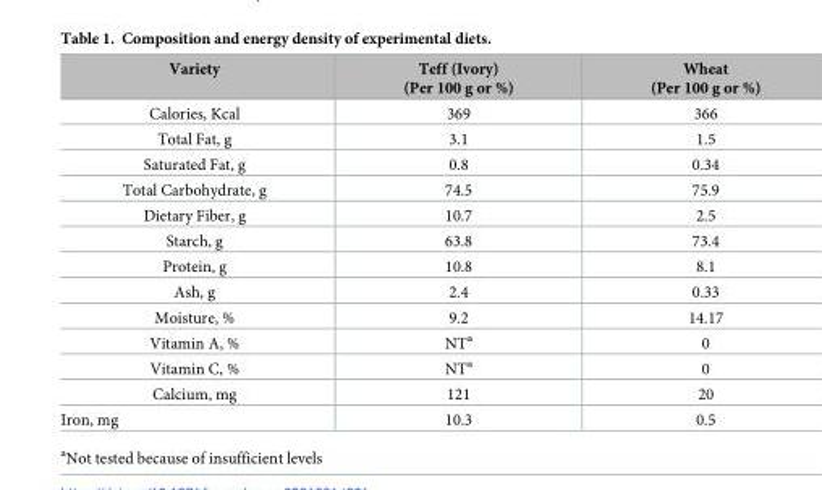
<table><thead><tr><td>Variety</td><td>Teff (Ivory) (Per 100 g or %)</td><td>Wheat (Per 100 g or %)</td></tr></thead><tbody><tr><td>Calories, Kcal</td><td>369</td><td>366</td></tr><tr><td>Total Fat, g</td><td>3.1</td><td>1.5</td></tr><tr><td>Saturated Fat, g</td><td>0.8</td><td>0.34</td></tr><tr><td>Total Carbohydrate, g</td><td>74.5</td><td>75.9</td></tr><tr><td>Dietary Fiber, g</td><td>10.7</td><td>2.5</td></tr><tr><td>Starch, g</td><td>63.8</td><td>73.4</td></tr><tr><td>Protein, g</td><td>10.8</td><td>8.1</td></tr><tr><td>Ash, g</td><td>2.4</td><td>0.33</td></tr><tr><td>Moisture, %</td><td>9.2</td><td>14.17</td></tr><tr><td>Vitamin A, %</td><td>NT<sup>a</sup></td><td>0</td></tr><tr><td>Vitamin C, %</td><td>NT<sup>a</sup></td><td>0</td></tr><tr><td>Calcium, mg</td><td>121</td><td>20</td></tr><tr><td>Iron, mg</td><td>10.3</td><td>0.5</td></tr></tbody></table>